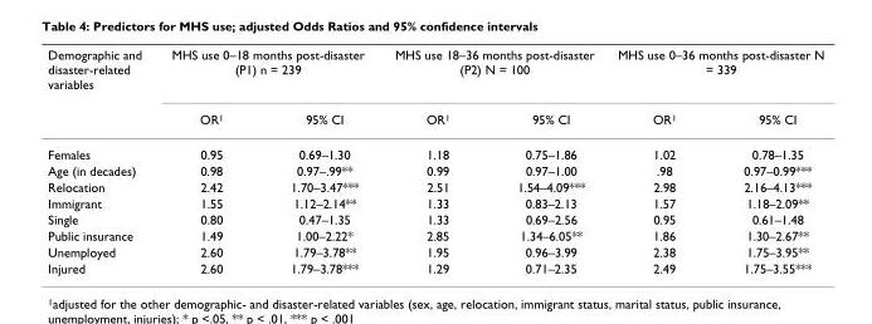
<table><thead><tr><td rowspan="2">Demographic and disaster-related variables</td><td colspan="2">MHS use 0–18 months post-disaster (P1) n = 239</td><td colspan="2">MHS use 18–36 months post-disaster (P2) N = 100</td><td colspan="2">MHS use 0–36 months post-disaster N = 339</td></tr><tr><td>OR<sup>1</sup></td><td>95% CI</td><td>OR<sup>1</sup></td><td>95% CI</td><td>OR<sup>1</sup></td><td>95% CI</td></tr></thead><tbody><tr><td>Females</td><td>0.95</td><td>0.69–1.30</td><td>1.18</td><td>0.75–1.86</td><td>1.02</td><td>0.78–1.35</td></tr><tr><td>Age (in decades)</td><td>0.98</td><td>0.97–.99**</td><td>0.99</td><td>0.97–1.00</td><td>.98</td><td>0.97–0.99***</td></tr><tr><td>Relocation</td><td>2.42</td><td>1.70–3.47***</td><td>2.51</td><td>1.54–4.09***</td><td>2.98</td><td>2.16–4.13***</td></tr><tr><td>Immigrant</td><td>1.55</td><td>1.12–2.14**</td><td>1.33</td><td>0.83–2.13</td><td>1.57</td><td>1.18–2.09**</td></tr><tr><td>Single</td><td>0.80</td><td>0.47–1.35</td><td>1.33</td><td>0.69–2.56</td><td>0.95</td><td>0.61–1.48</td></tr><tr><td>Public insurance</td><td>1.49</td><td>1.00–2.22*</td><td>2.85</td><td>1.34–6.05**</td><td>1.86</td><td>1.30–2.67**</td></tr><tr><td>Unemployed</td><td>2.60</td><td>1.79–3.78**</td><td>1.95</td><td>0.96–3.99</td><td>2.38</td><td>1.75–3.95**</td></tr><tr><td>Injured</td><td>2.60</td><td>1.79–3.78***</td><td>1.29</td><td>0.71–2.35</td><td>2.49</td><td>1.75–3.55***</td></tr></tbody></table>